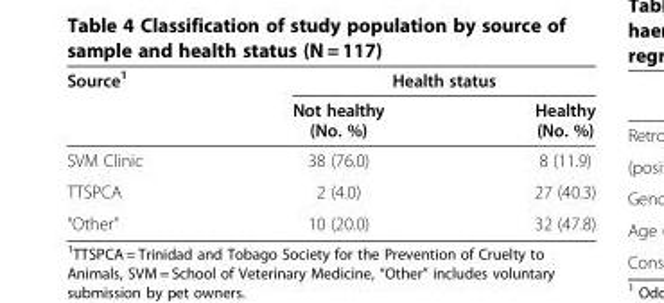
<table><thead><tr><td rowspan="2">Source<sup>1</sup></td><td colspan="2">Health status</td></tr><tr><td>Not healthy (No. %)</td><td>Healthy (No. %)</td></tr></thead><tbody><tr><td>SVM Clinic</td><td>38 (76.0)</td><td>8 (11.9)</td></tr><tr><td>TTSPCA</td><td>2 (4.0)</td><td>27 (40.3)</td></tr><tr><td>“Other”</td><td>10 (20.0)</td><td>32 (47.8)</td></tr></tbody></table>